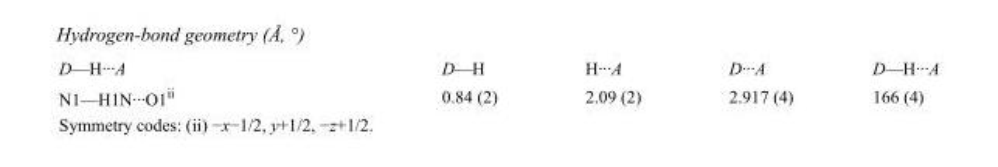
<table><tbody><tr><td>D—H···A</td><td>D—H</td><td>H···A</td><td>D···A</td><td>D—H···A</td></tr><tr><td>N1—H1N···O1<sup>ii</sup></td><td>0.84 (2)</td><td>2.09 (2)</td><td>2.917 (4)</td><td>166 (4)</td></tr></tbody></table>